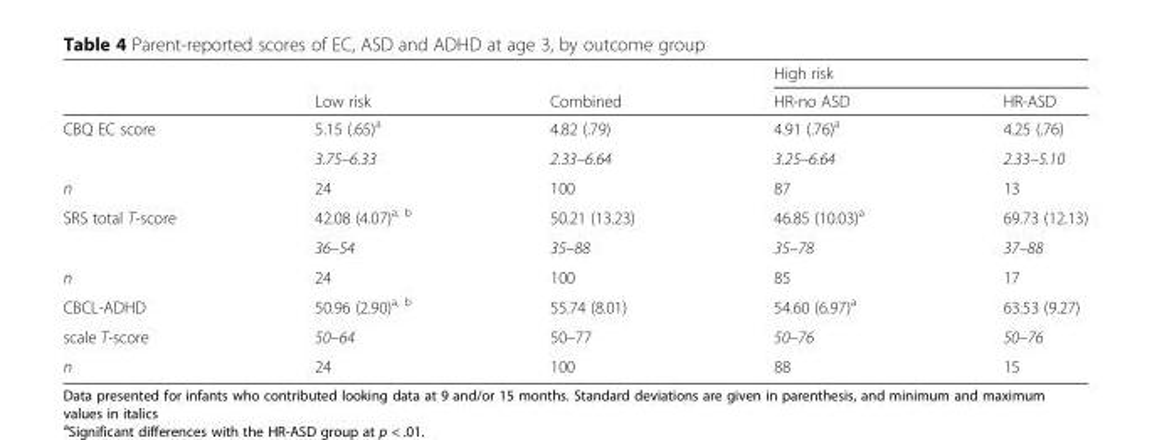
<table><thead><tr><td rowspan="2"></td><td rowspan="2">Low risk</td><td rowspan="2">Combined</td><td colspan="2">High risk</td></tr><tr><td>HR-no ASD</td><td>HR-ASD</td></tr></thead><tbody><tr><td rowspan="2">CBQ EC score</td><td>5.15 (.65)<sup>a</sup></td><td>4.82 (.79)</td><td>4.91 (.76)<sup>a</sup></td><td>4.25 (.76)</td></tr><tr><td>3.75–6.33</td><td>2.33–6.64</td><td>3.25–6.64</td><td>2.33–5.10</td></tr><tr><td>n</td><td>24</td><td>100</td><td>87</td><td>13</td></tr><tr><td rowspan="2">SRS total T-score</td><td>42.08 (4.07)<sup>a, b</sup></td><td>50.21 (13.23)</td><td>46.85 (10.03)<sup>a</sup></td><td>69.73 (12.13)</td></tr><tr><td>36–54</td><td>35–88</td><td>35–78</td><td>37–88</td></tr><tr><td>n</td><td>24</td><td>100</td><td>85</td><td>17</td></tr><tr><td>CBCL-ADHD</td><td>50.96 (2.90)<sup>a, b</sup></td><td>55.74 (8.01)</td><td>54.60 (6.97)<sup>a</sup></td><td>63.53 (9.27)</td></tr><tr><td>scale T-score</td><td>50–64</td><td>50–77</td><td>50–76</td><td>50–76</td></tr><tr><td>n</td><td>24</td><td>100</td><td>88</td><td>15</td></tr></tbody></table>